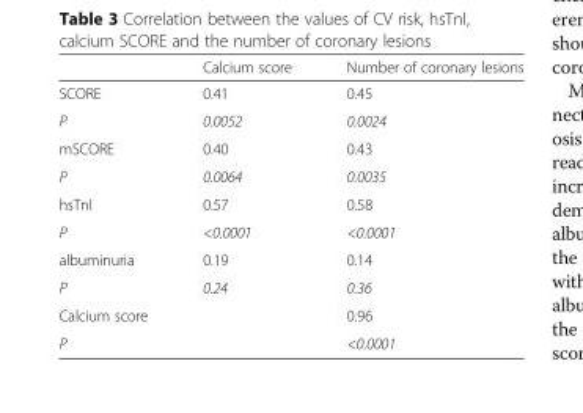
<table><thead><tr><td></td><td>Calcium score</td><td>Number of coronary lesions</td></tr></thead><tbody><tr><td>SCORE</td><td>0.41</td><td>0.45</td></tr><tr><td>P</td><td>0.0052</td><td>0.0024</td></tr><tr><td>mSCORE</td><td>0.40</td><td>0.43</td></tr><tr><td>P</td><td>0.0064</td><td>0.0035</td></tr><tr><td>hsTnI</td><td>0.57</td><td>0.58</td></tr><tr><td>P</td><td>&lt;0.0001</td><td>&lt;0.0001</td></tr><tr><td>albuminuria</td><td>0.19</td><td>0.14</td></tr><tr><td>P</td><td>0.24</td><td>0.36</td></tr><tr><td>Calcium score</td><td></td><td>0.96</td></tr><tr><td>P</td><td></td><td>&lt;0.0001</td></tr></tbody></table>